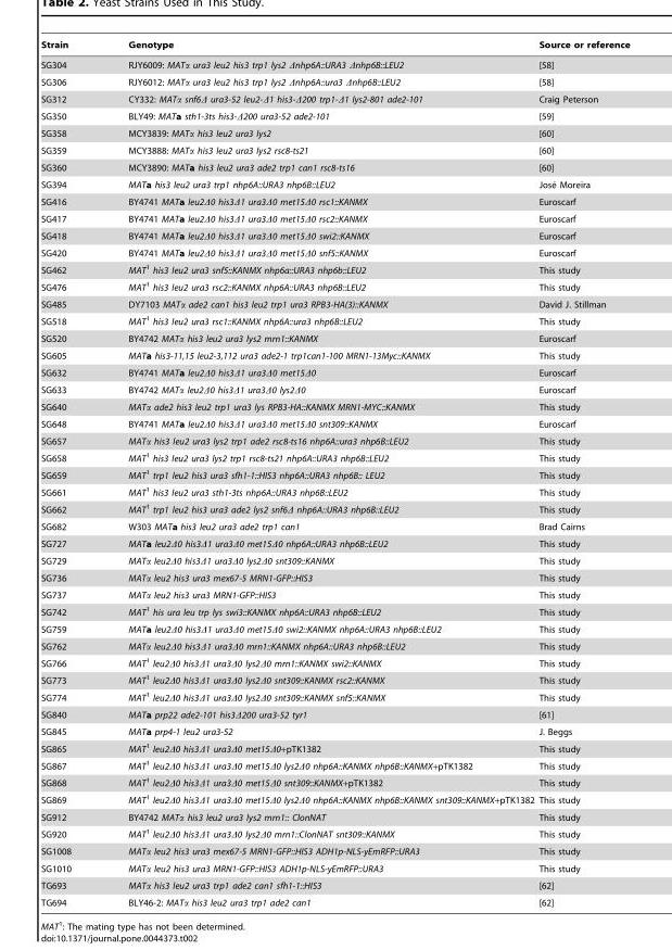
<table><thead><tr><td>Strain</td><td>Genotype</td><td>Source or reference</td></tr></thead><tbody><tr><td>SG304</td><td>RJY6009: MATα ura3 leu2 his3 trp1 lys2 Δnhp6A::URA3 Δnhp6B::LEU2</td><td>[58]</td></tr><tr><td>SG306</td><td>RJY6012: MATα ura3 leu2 his3 trp1 lys2 Δnhp6A::ura3 Δnhp6B::LEU2</td><td>[58]</td></tr><tr><td>SG312</td><td>CY332: MATα snf6Δ ura3-52 leu2-Δ1 his3-Δ200 trp1-Δ1 lys2-801 ade2-101</td><td>Craig Peterson</td></tr><tr><td>SG350</td><td>BLY49: MATa sth1-3ts his3-Δ200 ura3-52 ade2-101</td><td>[59]</td></tr><tr><td>SG358</td><td>MCY3839: MATα his3 leu2 ura3 lys2</td><td>[60]</td></tr><tr><td>SG359</td><td>MCY3888: MATα his3 leu2 ura3 lys2 rsc8-ts21</td><td>[60]</td></tr><tr><td>SG360</td><td>MCY3890: MATa his3 leu2 ura3 ade2 trp1 can1 rsc8-ts16</td><td>[60]</td></tr><tr><td>SG394</td><td>MATa his3 leu2 ura3 trp1 nhp6A::URA3 nhp6B::LEU2</td><td>Jose´ Moreira</td></tr><tr><td>SG416</td><td>BY4741 MATa leu2Δ0 his3Δ1 ura3Δ0 met15Δ0 rsc1::KANMX</td><td>Euroscarf</td></tr><tr><td>SG417</td><td>BY4741 MATa leu2Δ0 his3Δ1 ura3Δ0 met15Δ0 rsc2::KANMX</td><td>Euroscarf</td></tr><tr><td>SG418</td><td>BY4741 MATa leu2Δ0 his3Δ1 ura3Δ0 met15Δ0 swi2::KANMX</td><td>Euroscarf</td></tr><tr><td>SG420</td><td>BY4741 MATa leu2Δ0 his3Δ1 ura3Δ0 met15Δ0 snf5::KANMX</td><td>Euroscarf</td></tr><tr><td>SG462</td><td>MAT<sup>1</sup> his3 leu2 ura3 snf5::KANMX nhp6a::URA3 nhp6b::LEU2</td><td>This study</td></tr><tr><td>SG476</td><td>MAT<sup>1</sup> his3 leu2 ura3 rsc2::KANMX nhp6A::URA3 nhp6B::LEU2</td><td>This study</td></tr><tr><td>SG485</td><td>DY7103 MATα ade2 can1 his3 leu2 trp1 ura3 RPB3-HA(3)::KANMX</td><td>David J. Stillman</td></tr><tr><td>SG518</td><td>MAT<sup>1</sup> his3 leu2 ura3 rsc1::KANMX nhp6A::ura3 nhp6B::LEU2</td><td>This study</td></tr><tr><td>SG520</td><td>BY4742 MATα his3 leu2 ura3 lys2 mrn1::KANMX</td><td>Euroscarf</td></tr><tr><td>SG605</td><td>MATa his3-11,15 leu2-3,112 ura3 ade2-1 trp1can1-100 MRN1-13Myc::KANMX</td><td>This study</td></tr><tr><td>SG632</td><td>BY4741 MATa leu2Δ0 his3Δ1 ura3Δ0 met15Δ0</td><td>Euroscarf</td></tr><tr><td>SG633</td><td>BY4742 MATα leu2Δ0 his3Δ1 ura3Δ0 lys2Δ0</td><td>Euroscarf</td></tr><tr><td>SG640</td><td>MATα ade2 his3 leu2 trp1 ura3 lys RPB3-HA::KANMX MRN1-MYC::KANMX</td><td>This study</td></tr><tr><td>SG648</td><td>BY4741 MATa leu2Δ0 his3Δ1 ura3Δ0 met15Δ0 snt309::KANMX</td><td>Euroscarf</td></tr><tr><td>SG657</td><td>MATα his3 leu2 ura3 lys2 trp1 ade2 rsc8-ts16 nhp6A::ura3 nhp6B::LEU2</td><td>This study</td></tr><tr><td>SG658</td><td>MAT<sup>1</sup> his3 leu2 ura3 lys2 trp1 rsc8-ts21 nhp6A::URA3 nhp6B::LEU2</td><td>This study</td></tr><tr><td>SG659</td><td>MAT<sup>1</sup> trp1 leu2 his3 ura3 sfh1-1::HIS3 nhp6A::URA3 nhp6B:: LEU2</td><td>This study</td></tr><tr><td>SG661</td><td>MAT<sup>1</sup> his3 leu2 ura3 sth1-3ts nhp6A::URA3 nhp6B::LEU2</td><td>This study</td></tr><tr><td>SG662</td><td>MAT<sup>1</sup> trp1 leu2 his3 ura3 ade2 lys2 snf6Δ nhp6A::URA3 nhp6B::LEU2</td><td>This study</td></tr><tr><td>SG682</td><td>W303 MATa his3 leu2 ura3 ade2 trp1 can1</td><td>Brad Cairns</td></tr><tr><td>SG727</td><td>MATa leu2Δ0 his3Δ1 ura3Δ0 met15Δ0 nhp6A::URA3 nhp6B::LEU2</td><td>This study</td></tr><tr><td>SG729</td><td>MATα leu2Δ0 his3Δ1 ura3Δ0 lys2Δ0 snt309::KANMX</td><td>This study</td></tr><tr><td>SG736</td><td>MATα leu2 his3 ura3 mex67-5 MRN1-GFP::HIS3</td><td>This study</td></tr><tr><td>SG737</td><td>MATα leu2 his3 ura3 MRN1-GFP::HIS3</td><td>This study</td></tr><tr><td>SG742</td><td>MAT<sup>1</sup> his ura leu trp lys swi3::KANMX nhp6A::URA3 nhp6B::LEU2</td><td>This study</td></tr><tr><td>SG759</td><td>MATa leu2Δ0 his3Δ1 ura3Δ0 met15Δ0 swi2::KANMX nhp6A::URA3 nhp6B::LEU2</td><td>This study</td></tr><tr><td>SG762</td><td>MATα leu2Δ0 his3Δ1 ura3Δ0 mrn1::KANMX nhp6A::URA3 nhp6B::LEU2</td><td>This study</td></tr><tr><td>SG766</td><td>MAT<sup>1</sup> leu2Δ0 his3Δ1 ura3Δ0 lys2Δ0 mrn1::KANMX swi2::KANMX</td><td>This study</td></tr><tr><td>SG773</td><td>MAT<sup>1</sup> leu2Δ0 his3Δ1 ura3Δ0 lys2Δ0 snt309::KANMX rsc2::KANMX</td><td>This study</td></tr><tr><td>SG774</td><td>MAT<sup>1</sup> leu2Δ0 his3Δ1 ura3Δ0 lys2Δ0 snt309::KANMX snf5::KANMX</td><td>This study</td></tr><tr><td>SG840</td><td>MATa prp22 ade2-101 his3Δ200 ura3-52 tyr1</td><td>[61]</td></tr><tr><td>SG845</td><td>MATa prp4-1 leu2 ura3-52</td><td>J. Beggs</td></tr><tr><td>SG865</td><td>MAT<sup>1</sup> leu2Δ0 his3Δ1 ura3Δ0 met15Δ0+pTK1382</td><td>This study</td></tr><tr><td>SG867</td><td>MAT<sup>1</sup> leu2Δ0 his3Δ1 ura3Δ0 met15Δ0 lys2Δ0 nhp6A::KANMX nhp6B::KANMX+pTK1382</td><td>This study</td></tr><tr><td>SG868</td><td>MAT<sup>1</sup> leu2Δ0 his3Δ1 ura3Δ0 met15Δ0 snt309::KANMX+pTK1382</td><td>This study</td></tr><tr><td>SG869</td><td>MAT<sup>1</sup> leu2Δ0 his3Δ1 ura3Δ0 met15Δ0 lys2Δ0 nhp6A::KANMX nhp6B::KANMX snt309::KANMX+pTK1382</td><td>This study</td></tr><tr><td>SG912</td><td>BY4742 MATα his3 leu2 ura3 lys2 mrn1:: ClonNAT</td><td>This study</td></tr><tr><td>SG920</td><td>MAT<sup>1</sup> leu2Δ0 his3Δ1 ura3Δ0 lys2Δ0 mrn1::ClonNAT snt309::KANMX</td><td>This study</td></tr><tr><td>SG1008</td><td>MATα leu2 his3 ura3 mex67-5 MRN1-GFP::HIS3 ADH1p-NLS-yEmRFP::URA3</td><td>This study</td></tr><tr><td>SG1010</td><td>MATα leu2 his3 ura3 MRN1-GFP::HIS3 ADH1p-NLS-yEmRFP::URA3</td><td>This study</td></tr><tr><td>TG693</td><td>MATα his3 leu2 ura3 trp1 ade2 can1 sfh1-1::HIS3</td><td>[62]</td></tr><tr><td>TG694</td><td>BLY46-2: MATα his3 leu2 ura3 trp1 ade2 can1</td><td>[62]</td></tr></tbody></table>